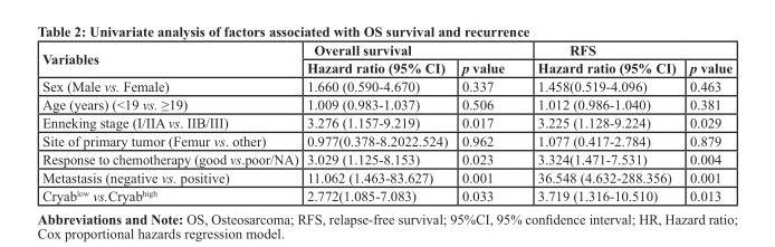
<table><thead><tr><td rowspan="2">Variables</td><td colspan="2">Overall survival</td><td colspan="2">RFS</td></tr><tr><td>Hazard ratio (95% CI)</td><td>p value</td><td>Hazard ratio (95% CI)</td><td>p value</td></tr></thead><tbody><tr><td>Sex (Male vs. Female)</td><td>1.660 (0.590-4.670)</td><td>0.337</td><td>1.458(0.519-4.096)</td><td>0.463</td></tr><tr><td>Age (years) (&lt;19 vs. ≥19)</td><td>1.009 (0.983-1.037)</td><td>0.506</td><td>1.012 (0.986-1.040)</td><td>0.381</td></tr><tr><td>Enneking stage (I/IIA vs. IIB/III)</td><td>3.276 (1.157-9.219)</td><td>0.017</td><td>3.225 (1.128-9.224)</td><td>0.029</td></tr><tr><td>Site of primary tumor (Femur vs. other)</td><td>0.977(0.378-8.2022.524)</td><td>0.962</td><td>1.077 (0.417-2.784)</td><td>0.879</td></tr><tr><td>Response to chemotherapy (good vs.poor/NA)</td><td>3.029 (1.125-8.153)</td><td>0.023</td><td>3.324(1.471-7.531)</td><td>0.004</td></tr><tr><td>Metastasis (negative vs. positive)</td><td>11.062 (1.463-83.627)</td><td>0.001</td><td>36.548 (4.632-288.356)</td><td>0.001</td></tr><tr><td>Cryab<sup>low</sup> vs.Cryab<sup>high</sup></td><td>2.772(1.085-7.083)</td><td>0.033</td><td>3.719 (1.316-10.510)</td><td>0.013</td></tr></tbody></table>